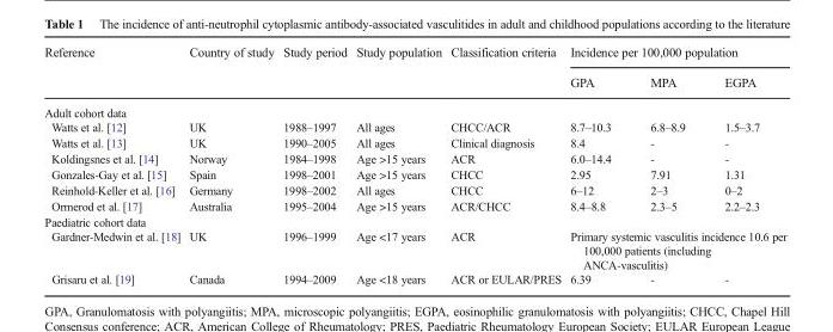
<table><thead><tr><td rowspan="2">Reference</td><td rowspan="2">Country of study</td><td rowspan="2">Study period</td><td rowspan="2">Study population</td><td rowspan="2">Classification criteria</td><td colspan="3">Incidence per 100,000 population</td></tr><tr><td>GPA</td><td>MPA</td><td>EGPA</td></tr></thead><tbody><tr><td colspan="8">Adult cohort data</td></tr><tr><td>Watts et al. [12]</td><td>UK</td><td>1988–1997</td><td>All ages</td><td>CHCC/ACR</td><td>8.7–10.3</td><td>6.8–8.9</td><td>1.5–3.7</td></tr><tr><td>Watts et al. [13]</td><td>UK</td><td>1990–2005</td><td>All ages</td><td>Clinical diagnosis</td><td>8.4</td><td>-</td><td>-</td></tr><tr><td>Koldingsnes et al. [14]</td><td>Norway</td><td>1984–1998</td><td>Age &gt;15 years</td><td>ACR</td><td>6.0–14.4</td><td>-</td><td>-</td></tr><tr><td>Gonzales-Gay et al. [15]</td><td>Spain</td><td>1998–2001</td><td>Age &gt;15 years</td><td>CHCC</td><td>2.95</td><td>7.91</td><td>1.31</td></tr><tr><td>Reinhold-Keller et al. [16]</td><td>Germany</td><td>1998–2002</td><td>All ages</td><td>CHCC</td><td>6–12</td><td>2–3</td><td>0–2</td></tr><tr><td>Ormerod et al. [17]</td><td>Australia</td><td>1995–2004</td><td>Age &gt;15 years</td><td>ACR/CHCC</td><td>8.4–8.8</td><td>2.3–5</td><td>2.2–2.3</td></tr><tr><td colspan="8">Paediatric cohort data</td></tr><tr><td>Gardner-Medwin et al. [18]</td><td>UK</td><td>1996–1999</td><td>Age &lt;17 years</td><td>ACR</td><td colspan="3">Primary systemic vasculitis incidence 10.6 per 100,000 patients (including ANCA-vasculitis)</td></tr><tr><td>Grisaru et al. [19]</td><td>Canada</td><td>1994–2009</td><td>Age &lt;18 years</td><td>ACR or EULAR/PRES</td><td>6.39</td><td>-</td><td>-</td></tr></tbody></table>